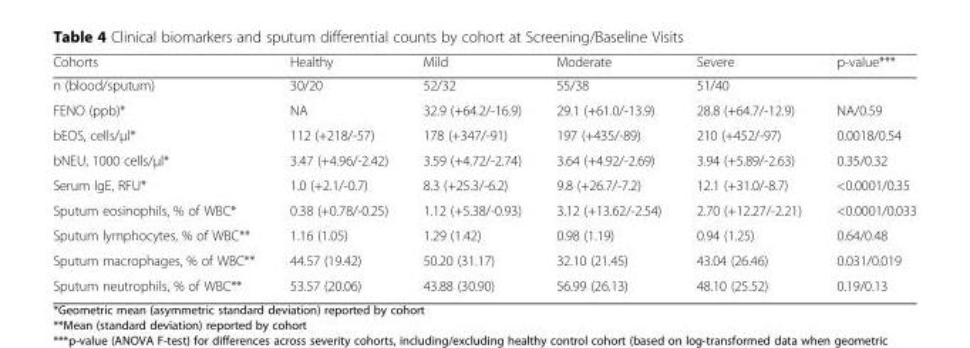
<table><thead><tr><td>Cohorts</td><td>Healthy</td><td>Mild</td><td>Moderate</td><td>Severe</td><td>p-value***</td></tr></thead><tbody><tr><td>n (blood/sputum)</td><td>30/20</td><td>52/32</td><td>55/38</td><td>51/40</td><td></td></tr><tr><td>FENO (ppb)*</td><td>NA</td><td>32.9 (+64.2/-16.9)</td><td>29.1 (+61.0/-13.9)</td><td>28.8 (+64.7/-12.9)</td><td>NA/0.59</td></tr><tr><td>bEOS, cells/μl*</td><td>112 (+218/-57)</td><td>178 (+347/-91)</td><td>197 (+435/-89)</td><td>210 (+452/-97)</td><td>0.0018/0.54</td></tr><tr><td>bNEU, 1000 cells/μl*</td><td>3.47 (+4.96/-2.42)</td><td>3.59 (+4.72/-2.74)</td><td>3.64 (+4.92/-2.69)</td><td>3.94 (+5.89/-2.63)</td><td>0.35/0.32</td></tr><tr><td>Serum IgE, RFU*</td><td>1.0 (+2.1/-0.7)</td><td>8.3 (+25.3/-6.2)</td><td>9.8 (+26.7/-7.2)</td><td>12.1 (+31.0/-8.7)</td><td>&lt;0.0001/0.35</td></tr><tr><td>Sputum eosinophils, % of WBC*</td><td>0.38 (+0.78/-0.25)</td><td>1.12 (+5.38/-0.93)</td><td>3.12 (+13.62/-2.54)</td><td>2.70 (+12.27/-2.21)</td><td>&lt;0.0001/0.033</td></tr><tr><td>Sputum lymphocytes, % of WBC**</td><td>1.16 (1.05)</td><td>1.29 (1.42)</td><td>0.98 (1.19)</td><td>0.94 (1.25)</td><td>0.64/0.48</td></tr><tr><td>Sputum macrophages, % of WBC**</td><td>44.57 (19.42)</td><td>50.20 (31.17)</td><td>32.10 (21.45)</td><td>43.04 (26.46)</td><td>0.031/0.019</td></tr><tr><td>Sputum neutrophils, % of WBC**</td><td>53.57 (20.06)</td><td>43.88 (30.90)</td><td>56.99 (26.13)</td><td>48.10 (25.52)</td><td>0.19/0.13</td></tr></tbody></table>